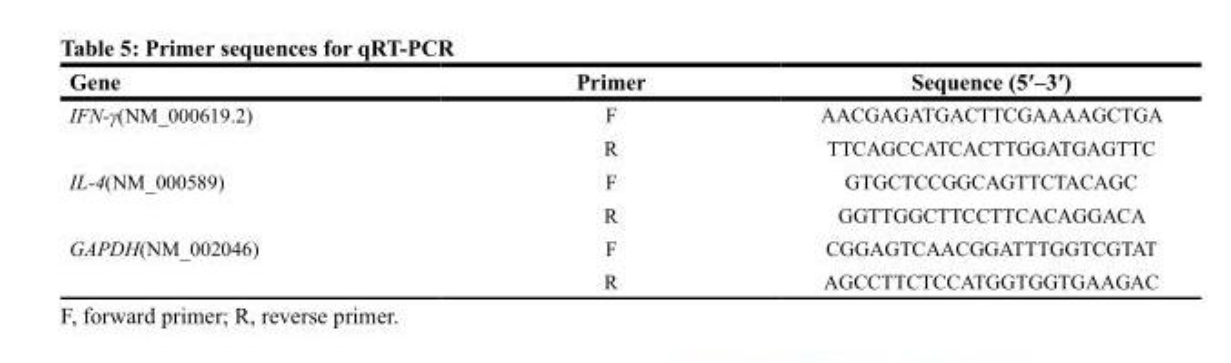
<table><thead><tr><td>Gene</td><td>Primer</td><td>Sequence (5′–3′)</td></tr></thead><tbody><tr><td rowspan="2">IFN-γ(NM_000619.2)</td><td>F</td><td>AACGAGATGACTTCGAAAAGCTGA</td></tr><tr><td>R</td><td>TTCAGCCATCACTTGGATGAGTTC</td></tr><tr><td rowspan="2">IL-4(NM_000589)</td><td>F</td><td>GTGCTCCGGCAGTTCTACAGC</td></tr><tr><td>R</td><td>GGTTGGCTTCCTTCACAGGACA</td></tr><tr><td rowspan="2">GAPDH(NM_002046)</td><td>F</td><td>CGGAGTCAACGGATTTGGTCGTAT</td></tr><tr><td>R</td><td>AGCCTTCTCCATGGTGGTGAAGAC</td></tr></tbody></table>